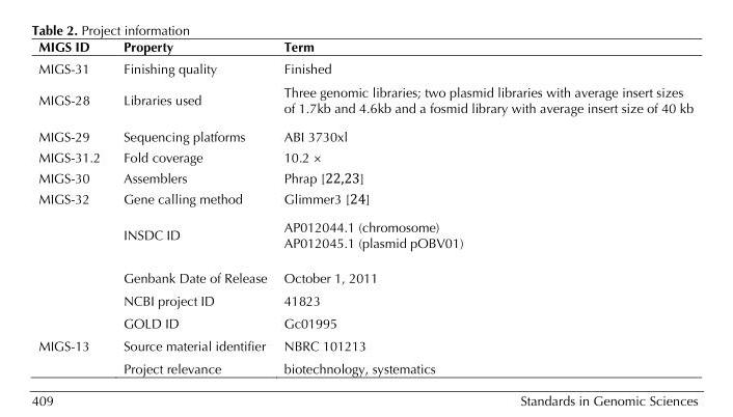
<table><thead><tr><td>MIGS ID</td><td>Property</td><td>Term</td></tr></thead><tbody><tr><td>MIGS-31</td><td>Finishing quality</td><td>Finished</td></tr><tr><td>MIGS-28</td><td>Libraries used</td><td>Three genomic libraries; two plasmid libraries with average insert sizes of 1.7kb and 4.6kb and a fosmid library with average insert size of 40 kb</td></tr><tr><td>MIGS-29</td><td>Sequencing platforms</td><td>ABI 3730xl</td></tr><tr><td>MIGS-31.2</td><td>Fold coverage</td><td>10.2 ×</td></tr><tr><td>MIGS-30</td><td>Assemblers</td><td>Phrap [22,23]</td></tr><tr><td rowspan="5">MIGS-32</td><td>Gene calling method</td><td>Glimmer3 [24]</td></tr><tr><td>INSDC ID</td><td>AP012044.1 (chromosome) AP012045.1 (plasmid pOBV01)</td></tr><tr><td>Genbank Date of Release</td><td>October 1, 2011</td></tr><tr><td>NCBI project ID</td><td>41823</td></tr><tr><td>GOLD ID</td><td>Gc01995</td></tr><tr><td rowspan="2">MIGS-13</td><td>Source material identifier</td><td>NBRC 101213</td></tr><tr><td>Project relevance</td><td>biotechnology, systematics</td></tr></tbody></table>